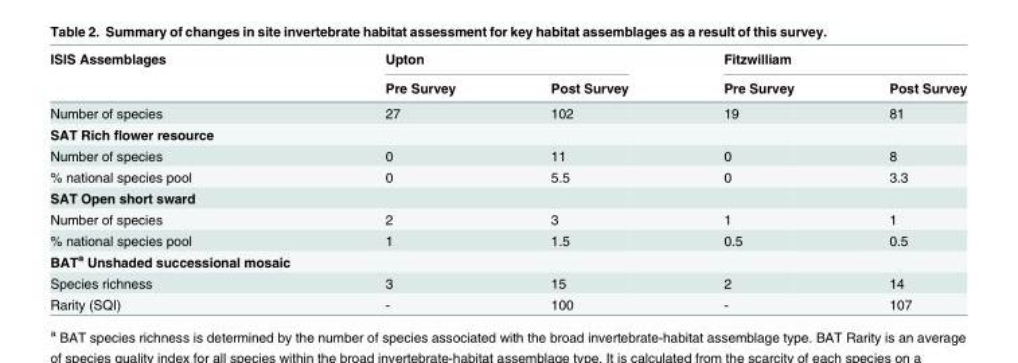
<table><thead><tr><td rowspan="2">ISIS Assemblages</td><td colspan="2">Upton</td><td colspan="2">Fitzwilliam</td></tr><tr><td>Pre Survey</td><td>Post Survey</td><td>Pre Survey</td><td>Post Survey</td></tr></thead><tbody><tr><td>Number of species</td><td>27</td><td>102</td><td>19</td><td>81</td></tr><tr><td colspan="5">SAT Rich flower resource</td></tr><tr><td>Number of species</td><td>0</td><td>11</td><td>0</td><td>8</td></tr><tr><td>% national species pool</td><td>0</td><td>5.5</td><td>0</td><td>3.3</td></tr><tr><td colspan="5">SAT Open short sward</td></tr><tr><td>Number of species</td><td>2</td><td>3</td><td>1</td><td>1</td></tr><tr><td>% national species pool</td><td>1</td><td>1.5</td><td>0.5</td><td>0.5</td></tr><tr><td colspan="5">BAT<sup>a</sup> Unshaded successional mosaic</td></tr><tr><td>Species richness</td><td>3</td><td>15</td><td>2</td><td>14</td></tr><tr><td>Rarity (SQI)</td><td>-</td><td>100</td><td>-</td><td>107</td></tr></tbody></table>